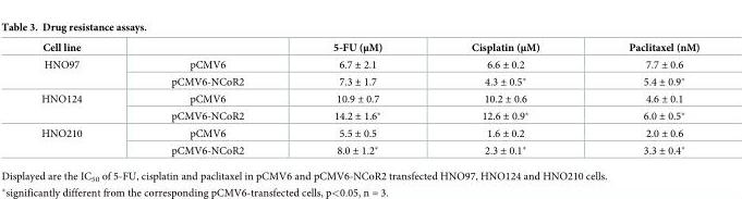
<table><thead><tr><td>Cell line</td><td></td><td>5-FU (μM)</td><td>Cisplatin (μM)</td><td>Paclitaxel (nM)</td></tr></thead><tbody><tr><td rowspan="2">HNO97</td><td>pCMV6</td><td>6.7 ± 2.1</td><td>6.6 ± 0.2</td><td>7.7 ± 0.6</td></tr><tr><td>pCMV6-NCoR2</td><td>7.3 ± 1.7</td><td>4.3 ± 0.5*</td><td>5.4 ± 0.9*</td></tr><tr><td rowspan="2">HNO124</td><td>pCMV6</td><td>10.9 ± 0.7</td><td>10.2 ± 0.6</td><td>4.6 ± 0.1</td></tr><tr><td>pCMV6-NCoR2</td><td>14.2 ± 1.6*</td><td>12.6 ± 0.9*</td><td>6.0 ± 0.5*</td></tr><tr><td rowspan="2">HNO210</td><td>pCMV6</td><td>5.5 ± 0.5</td><td>1.6 ± 0.2</td><td>2.0 ± 0.6</td></tr><tr><td>pCMV6-NCoR2</td><td>8.0 ± 1.2*</td><td>2.3 ± 0.1*</td><td>3.3 ± 0.4*</td></tr></tbody></table>